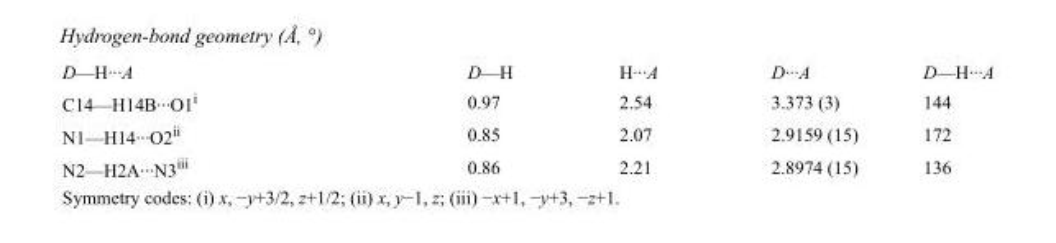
<table><tbody><tr><td>D—H···A</td><td>D—H</td><td>H···A</td><td>D···A</td><td>D—H···A</td></tr><tr><td>C14—H14B···O1<sup>i</sup></td><td>0.97</td><td>2.54</td><td>3.373 (3)</td><td>144</td></tr><tr><td>N1—H14···O2<sup>ii</sup></td><td>0.85</td><td>2.07</td><td>2.9159 (15)</td><td>172</td></tr><tr><td>N2—H2A···N3<sup>iii</sup></td><td>0.86</td><td>2.21</td><td>2.8974 (15)</td><td>136</td></tr></tbody></table>